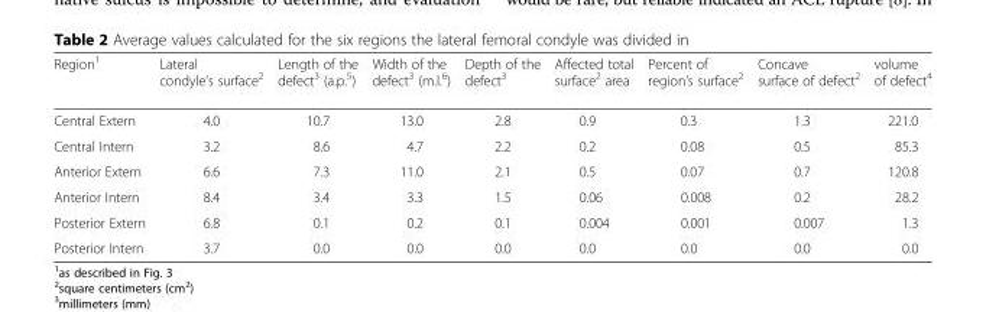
<table><thead><tr><td>Region<sup>1</sup></td><td>Lateral condyle’s surface<sup>2</sup></td><td>Length of the defect<sup>3</sup> (a.p.<sup>5</sup>)</td><td>Width of the defect<sup>3</sup> (m.l.<sup>6</sup>)</td><td>Depth of the defect<sup>3</sup></td><td>Affected total surface<sup>2</sup> area</td><td>Percent of region’s surface<sup>2</sup></td><td>Concave surface of defect<sup>2</sup></td><td>volume of defect<sup>4</sup></td></tr></thead><tbody><tr><td>Central Extern</td><td>4.0</td><td>10.7</td><td>13.0</td><td>2.8</td><td>0.9</td><td>0.3</td><td>1.3</td><td>221.0</td></tr><tr><td>Central Intern</td><td>3.2</td><td>8.6</td><td>4.7</td><td>2.2</td><td>0.2</td><td>0.08</td><td>0.5</td><td>85.3</td></tr><tr><td>Anterior Extern</td><td>6.6</td><td>7.3</td><td>11.0</td><td>2.1</td><td>0.5</td><td>0.07</td><td>0.7</td><td>120.8</td></tr><tr><td>Anterior Intern</td><td>8.4</td><td>3.4</td><td>3.3</td><td>1.5</td><td>0.06</td><td>0.008</td><td>0.2</td><td>28.2</td></tr><tr><td>Posterior Extern</td><td>6.8</td><td>0.1</td><td>0.2</td><td>0.1</td><td>0.004</td><td>0.001</td><td>0.007</td><td>1.3</td></tr><tr><td>Posterior Intern</td><td>3.7</td><td>0.0</td><td>0.0</td><td>0.0</td><td>0.0</td><td>0.0</td><td>0.0</td><td>0.0</td></tr></tbody></table>